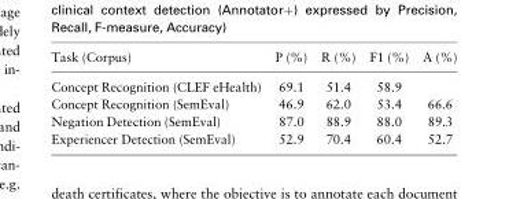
<table><thead><tr><td>Task (Corpus)</td><td>P (%)</td><td>R (%)</td><td>F1 (%)</td><td>A (%)</td></tr></thead><tbody><tr><td>Concept Recognition (CLEF eHealth)</td><td>69.1</td><td>51.4</td><td>58.9</td><td></td></tr><tr><td>Concept Recognition (SemEval)</td><td>46.9</td><td>62.0</td><td>53.4</td><td>66.6</td></tr><tr><td>Negation Detection (SemEval)</td><td>87.0</td><td>88.9</td><td>88.0</td><td>89.3</td></tr><tr><td>Experiencer Detection (SemEval)</td><td>52.9</td><td>70.4</td><td>60.4</td><td>52.7</td></tr></tbody></table>